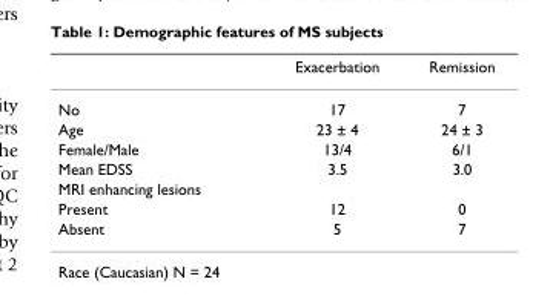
<table><thead><tr><td></td><td>Exacerbation</td><td>Remission</td></tr></thead><tbody><tr><td>No</td><td>17</td><td>7</td></tr><tr><td>Age</td><td>23 ± 4</td><td>24 ± 3</td></tr><tr><td>Female/Male</td><td>13/4</td><td>6/1</td></tr><tr><td>Mean EDSS</td><td>3.5</td><td>3.0</td></tr><tr><td colspan="3">MRI enhancing lesions</td></tr><tr><td>Present</td><td>12</td><td>0</td></tr><tr><td>Absent</td><td>5</td><td>7</td></tr></tbody></table>